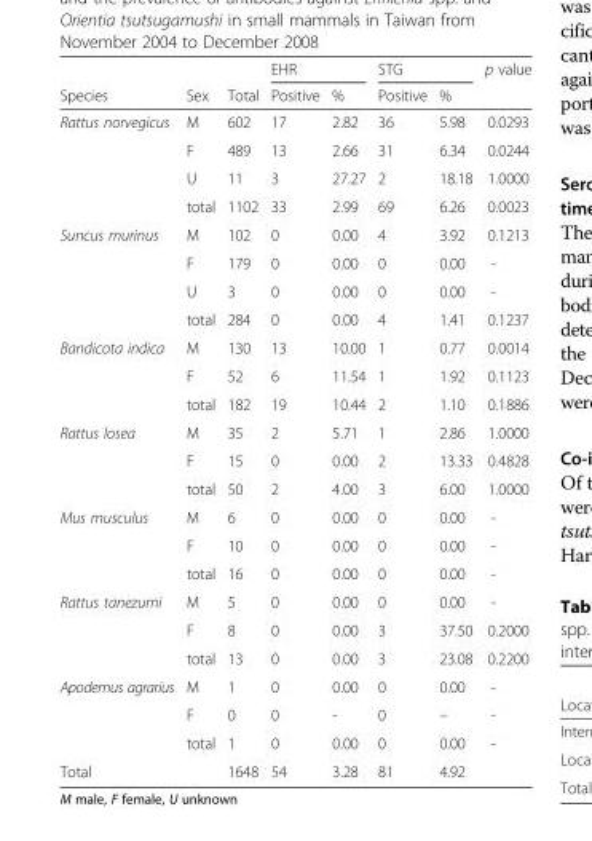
<table><thead><tr><td rowspan="2">Species</td><td rowspan="2">Sex</td><td rowspan="2">Total</td><td colspan="2">EHR</td><td colspan="2">STG</td><td rowspan="2">p value</td></tr><tr><td>Positive</td><td>%</td><td>Positive</td><td>%</td></tr></thead><tbody><tr><td rowspan="4">Rattus norvegicus</td><td>M</td><td>602</td><td>17</td><td>2.82</td><td>36</td><td>5.98</td><td>0.0293</td></tr><tr><td>F</td><td>489</td><td>13</td><td>2.66</td><td>31</td><td>6.34</td><td>0.0244</td></tr><tr><td>U</td><td>11</td><td>3</td><td>27.27</td><td>2</td><td>18.18</td><td>1.0000</td></tr><tr><td>total</td><td>1102</td><td>33</td><td>2.99</td><td>69</td><td>6.26</td><td>0.0023</td></tr><tr><td rowspan="4">Suncus murinus</td><td>M</td><td>102</td><td>0</td><td>0.00</td><td>4</td><td>3.92</td><td>0.1213</td></tr><tr><td>F</td><td>179</td><td>0</td><td>0.00</td><td>0</td><td>0.00</td><td>-</td></tr><tr><td>U</td><td>3</td><td>0</td><td>0.00</td><td>0</td><td>0.00</td><td>-</td></tr><tr><td>total</td><td>284</td><td>0</td><td>0.00</td><td>4</td><td>1.41</td><td>0.1237</td></tr><tr><td rowspan="3">Bandicota indica</td><td>M</td><td>130</td><td>13</td><td>10.00</td><td>1</td><td>0.77</td><td>0.0014</td></tr><tr><td>F</td><td>52</td><td>6</td><td>11.54</td><td>1</td><td>1.92</td><td>0.1123</td></tr><tr><td>total</td><td>182</td><td>19</td><td>10.44</td><td>2</td><td>1.10</td><td>0.1886</td></tr><tr><td rowspan="3">Rattus losea</td><td>M</td><td>35</td><td>2</td><td>5.71</td><td>1</td><td>2.86</td><td>1.0000</td></tr><tr><td>F</td><td>15</td><td>0</td><td>0.00</td><td>2</td><td>13.33</td><td>0.4828</td></tr><tr><td>total</td><td>50</td><td>2</td><td>4.00</td><td>3</td><td>6.00</td><td>1.0000</td></tr><tr><td rowspan="3">Mus musculus</td><td>M</td><td>6</td><td>0</td><td>0.00</td><td>0</td><td>0.00</td><td>-</td></tr><tr><td>F</td><td>10</td><td>0</td><td>0.00</td><td>0</td><td>0.00</td><td>-</td></tr><tr><td>total</td><td>16</td><td>0</td><td>0.00</td><td>0</td><td>0.00</td><td>-</td></tr><tr><td rowspan="3">Rattus tanezumi</td><td>M</td><td>5</td><td>0</td><td>0.00</td><td>0</td><td>0.00</td><td>-</td></tr><tr><td>F</td><td>8</td><td>0</td><td>0.00</td><td>3</td><td>37.50</td><td>0.2000</td></tr><tr><td>total</td><td>13</td><td>0</td><td>0.00</td><td>3</td><td>23.08</td><td>0.2200</td></tr><tr><td rowspan="3">Apodemus agrarius</td><td>M</td><td>1</td><td>0</td><td>0.00</td><td>0</td><td>0.00</td><td>-</td></tr><tr><td>F</td><td>0</td><td>0</td><td>-</td><td>0</td><td>–</td><td>-</td></tr><tr><td>total</td><td>1</td><td>0</td><td>0.00</td><td>0</td><td>0.00</td><td>-</td></tr><tr><td>Total</td><td></td><td>1648</td><td>54</td><td>3.28</td><td>81</td><td>4.92</td><td></td></tr></tbody></table>